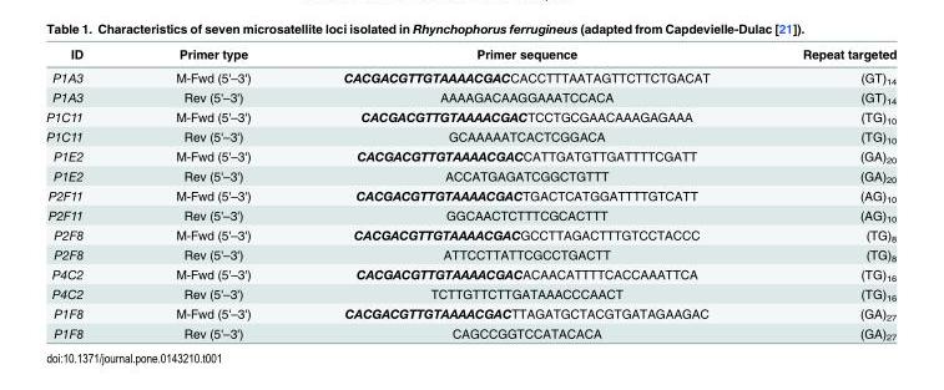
<table><thead><tr><td>ID</td><td>Primer type</td><td>Primer sequence</td><td>Repeat targeted</td></tr></thead><tbody><tr><td>P1A3</td><td>M-Fwd (5&#x27;–3&#x27;)</td><td>CACGACGTTGTAAAACGACCACCTTTAATAGTTCTTCTGACAT</td><td>(GT)<sub>14</sub></td></tr><tr><td>P1A3</td><td>Rev (5&#x27;–3&#x27;)</td><td>AAAAGACAAGGAAATCCACA</td><td>(GT)<sub>14</sub></td></tr><tr><td>P1C11</td><td>M-Fwd (5&#x27;–3&#x27;)</td><td>CACGACGTTGTAAAACGACTCCTGCGAACAAAGAGAAA</td><td>(TG)<sub>10</sub></td></tr><tr><td>P1C11</td><td>Rev (5&#x27;–3&#x27;)</td><td>GCAAAAATCACTCGGACA</td><td>(TG)<sub>10</sub></td></tr><tr><td>P1E2</td><td>M-Fwd (5&#x27;–3&#x27;)</td><td>CACGACGTTGTAAAACGACCATTGATGTTGATTTTCGATT</td><td>(GA)<sub>20</sub></td></tr><tr><td>P1E2</td><td>Rev (5&#x27;–3&#x27;)</td><td>ACCATGAGATCGGCTGTTT</td><td>(GA)<sub>20</sub></td></tr><tr><td>P2F11</td><td>M-Fwd (5&#x27;–3&#x27;)</td><td>CACGACGTTGTAAAACGACTGACTCATGGATTTTGTCATT</td><td>(AG)<sub>10</sub></td></tr><tr><td>P2F11</td><td>Rev (5&#x27;–3&#x27;)</td><td>GGCAACTCTTTCGCACTTT</td><td>(AG)<sub>10</sub></td></tr><tr><td>P2F8</td><td>M-Fwd (5&#x27;–3&#x27;)</td><td>CACGACGTTGTAAAACGACGCCTTAGACTTTGTCCTACCC</td><td>(TG)<sub>8</sub></td></tr><tr><td>P2F8</td><td>Rev (5&#x27;–3&#x27;)</td><td>ATTCCTTATTCGCCTGACTT</td><td>(TG)<sub>8</sub></td></tr><tr><td>P4C2</td><td>M-Fwd (5&#x27;–3&#x27;)</td><td>CACGACGTTGTAAAACGACACAACATTTTCACCAAATTCA</td><td>(TG)<sub>16</sub></td></tr><tr><td>P4C2</td><td>Rev (5&#x27;–3&#x27;)</td><td>TCTTGTTCTTGATAAACCCAACT</td><td>(TG)<sub>16</sub></td></tr><tr><td>P1F8</td><td>M-Fwd (5&#x27;–3&#x27;)</td><td>CACGACGTTGTAAAACGACTTAGATGCTACGTGATAGAAGAC</td><td>(GA)<sub>27</sub></td></tr><tr><td>P1F8</td><td>Rev (5&#x27;–3&#x27;)</td><td>CAGCCGGTCCATACACA</td><td>(GA)<sub>27</sub></td></tr></tbody></table>